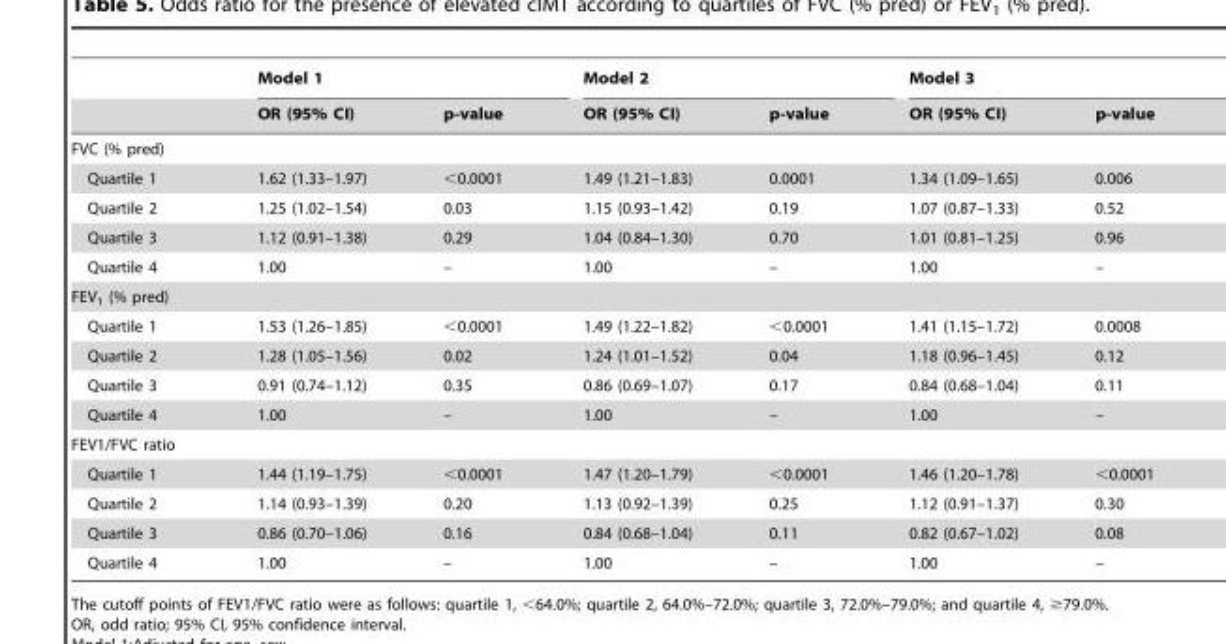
<table><thead><tr><td rowspan="2"></td><td colspan="2">Model 1</td><td colspan="2">Model 2</td><td colspan="2">Model 3</td></tr><tr><td>OR (95% CI)</td><td>p-value</td><td>OR (95% CI)</td><td>p-value</td><td>OR (95% CI)</td><td>p-value</td></tr></thead><tbody><tr><td colspan="7">FVC (% pred)</td></tr><tr><td>Quartile 1</td><td>1.62 (1.33–1.97)</td><td>&lt;0.0001</td><td>1.49 (1.21–1.83)</td><td>0.0001</td><td>1.34 (1.09–1.65)</td><td>0.006</td></tr><tr><td>Quartile 2</td><td>1.25 (1.02–1.54)</td><td>0.03</td><td>1.15 (0.93–1.42)</td><td>0.19</td><td>1.07 (0.87–1.33)</td><td>0.52</td></tr><tr><td>Quartile 3</td><td>1.12 (0.91–1.38)</td><td>0.29</td><td>1.04 (0.84–1.30)</td><td>0.70</td><td>1.01 (0.81–1.25)</td><td>0.96</td></tr><tr><td>Quartile 4</td><td>1.00</td><td>–</td><td>1.00</td><td>–</td><td>1.00</td><td>–</td></tr><tr><td colspan="7">FEV<sub>1</sub> (% pred)</td></tr><tr><td>Quartile 1</td><td>1.53 (1.26–1.85)</td><td>&lt;0.0001</td><td>1.49 (1.22–1.82)</td><td>&lt;0.0001</td><td>1.41 (1.15–1.72)</td><td>0.0008</td></tr><tr><td>Quartile 2</td><td>1.28 (1.05–1.56)</td><td>0.02</td><td>1.24 (1.01–1.52)</td><td>0.04</td><td>1.18 (0.96–1.45)</td><td>0.12</td></tr><tr><td>Quartile 3</td><td>0.91 (0.74–1.12)</td><td>0.35</td><td>0.86 (0.69–1.07)</td><td>0.17</td><td>0.84 (0.68–1.04)</td><td>0.11</td></tr><tr><td>Quartile 4</td><td>1.00</td><td>–</td><td>1.00</td><td>–</td><td>1.00</td><td>–</td></tr><tr><td colspan="7">FEV1/FVC ratio</td></tr><tr><td>Quartile 1</td><td>1.44 (1.19–1.75)</td><td>&lt;0.0001</td><td>1.47 (1.20–1.79)</td><td>&lt;0.0001</td><td>1.46 (1.20–1.78)</td><td>&lt;0.0001</td></tr><tr><td>Quartile 2</td><td>1.14 (0.93–1.39)</td><td>0.20</td><td>1.13 (0.92–1.39)</td><td>0.25</td><td>1.12 (0.91–1.37)</td><td>0.30</td></tr><tr><td>Quartile 3</td><td>0.86 (0.70–1.06)</td><td>0.16</td><td>0.84 (0.68–1.04)</td><td>0.11</td><td>0.82 (0.67–1.02)</td><td>0.08</td></tr><tr><td>Quartile 4</td><td>1.00</td><td>–</td><td>1.00</td><td>–</td><td>1.00</td><td>–</td></tr></tbody></table>